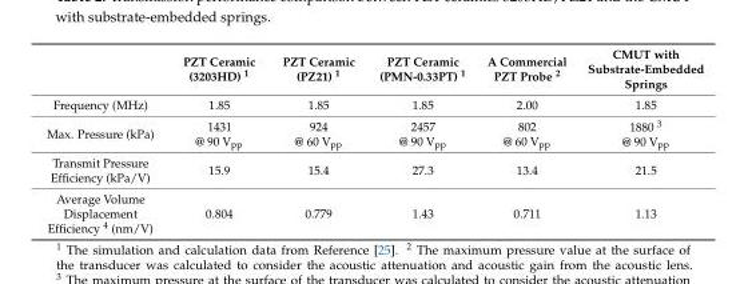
<table><thead><tr><td></td><td>PZT Ceramic (3203HD) <sup>1</sup></td><td>PZT Ceramic (PZ21) <sup>1</sup></td><td>PZT Ceramic (PMN-0.33PT) <sup>1</sup></td><td>A Commercial PZT Probe <sup>2</sup></td><td>CMUT with Substrate-Embedded Springs</td></tr></thead><tbody><tr><td>Frequency (MHz)</td><td>1.85</td><td>1.85</td><td>1.85</td><td>2.00</td><td>1.85</td></tr><tr><td>Max. Pressure (kPa)</td><td>1431 @ 90 V<sub>pp</sub></td><td>924 @ 60 V<sub>pp</sub></td><td>2457 @ 90 V<sub>pp</sub></td><td>802 @ 60 V<sub>pp</sub></td><td>1880 <sup>3</sup> @ 90 V<sub>pp</sub></td></tr><tr><td>Transmit Pressure Efficiency (kPa/V)</td><td>15.9</td><td>15.4</td><td>27.3</td><td>13.4</td><td>21.5</td></tr><tr><td>Average Volume Displacement Efficiency <sup>4</sup> (nm/V)</td><td>0.804</td><td>0.779</td><td>1.43</td><td>0.711</td><td>1.13</td></tr></tbody></table>